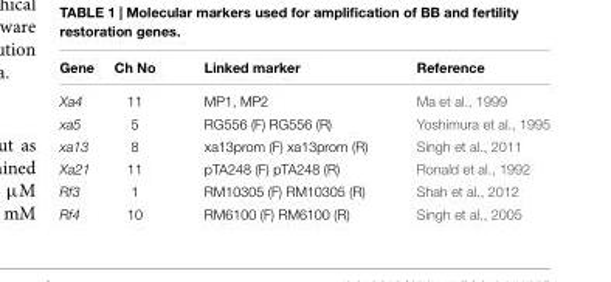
<table><thead><tr><td>Gene</td><td>Ch No</td><td>Linked marker</td><td>Reference</td></tr></thead><tbody><tr><td>Xa4</td><td>11</td><td>MP1, MP2</td><td>Ma et al., 1999</td></tr><tr><td>xa5</td><td>5</td><td>RG556 (F) RG556 (R)</td><td>Yoshimura et al., 1995</td></tr><tr><td>xa13</td><td>8</td><td>xa13prom (F) xa13prom (R)</td><td>Singh et al., 2011</td></tr><tr><td>Xa21</td><td>11</td><td>pTA248 (F) pTA248 (R)</td><td>Ronald et al., 1992</td></tr><tr><td>Rf3</td><td>1</td><td>RM10305 (F) RM10305 (R)</td><td>Shah et al., 2012</td></tr><tr><td>Rf4</td><td>10</td><td>RM6100 (F) RM6100 (R)</td><td>Singh et al., 2005</td></tr></tbody></table>